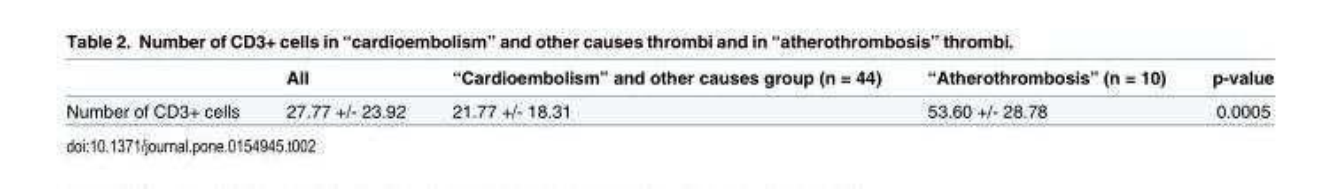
<table><thead><tr><td></td><td>All</td><td>“Cardioembolism” and other causes group (n = 44)</td><td>“Atherothrombosis” (n = 10)</td><td>p-value</td></tr></thead><tbody><tr><td>Number of CD3+ cells</td><td>27.77 +/- 23.92</td><td>21.77 +/- 18.31</td><td>53.60 +/- 28.78</td><td>0.0005</td></tr></tbody></table>